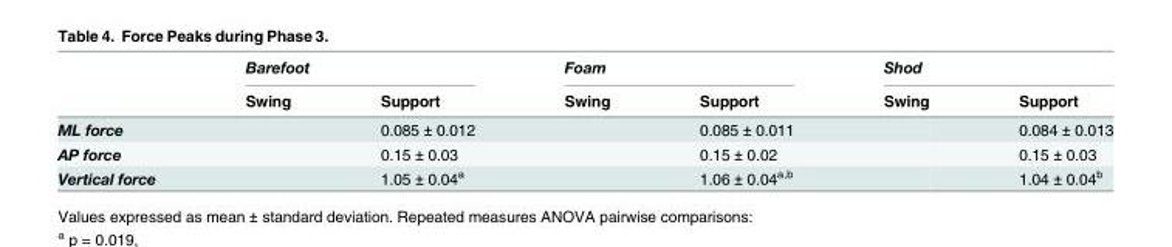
<table><thead><tr><td rowspan="2"></td><td colspan="2">Barefoot</td><td colspan="2">Foam</td><td colspan="2">Shod</td></tr><tr><td>Swing</td><td>Support</td><td>Swing</td><td>Support</td><td>Swing</td><td>Support</td></tr></thead><tbody><tr><td>ML force</td><td></td><td>0.085 ± 0.012</td><td></td><td>0.085 ± 0.011</td><td></td><td>0.084 ± 0.013</td></tr><tr><td>AP force</td><td></td><td>0.15 ± 0.03</td><td></td><td>0.15 ± 0.02</td><td></td><td>0.15 ± 0.03</td></tr><tr><td>Vertical force</td><td></td><td>1.05 ± 0.04<sup>a</sup></td><td></td><td>1.06 ± 0.04<sup>a,b</sup></td><td></td><td>1.04 ± 0.04<sup>b</sup></td></tr></tbody></table>